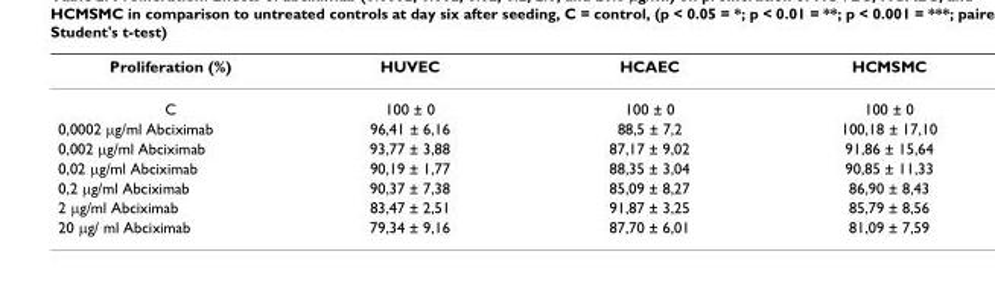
<table><thead><tr><td>Proliferation (%)</td><td>HUVEC</td><td>HCAEC</td><td>HCMSMC</td></tr></thead><tbody><tr><td>C</td><td>100 ± 0</td><td>100 ± 0</td><td>100 ± 0</td></tr><tr><td>0,0002 μg/ml Abciximab</td><td>96,41 ± 6,16</td><td>88,5 ± 7,2</td><td>100,18 ± 17,10</td></tr><tr><td>0,002 μg/ml Abciximab</td><td>93,77 ± 3,88</td><td>87,17 ± 9,02</td><td>91,86 ± 15,64</td></tr><tr><td>0,02 μg/ml Abciximab</td><td>90,19 ± 1,77</td><td>88,35 ± 3,04</td><td>90,85 ± 11,33</td></tr><tr><td>0,2 μg/ml Abciximab</td><td>90,37 ± 7,38</td><td>85,09 ± 8,27</td><td>86,90 ± 8,43</td></tr><tr><td>2 μg/ml Abciximab</td><td>83,47 ± 2,51</td><td>91,87 ± 3,25</td><td>85,79 ± 8,56</td></tr><tr><td>20 μg/ ml Abciximab</td><td>79,34 ± 9,16</td><td>87,70 ± 6,01</td><td>81,09 ± 7,59</td></tr></tbody></table>